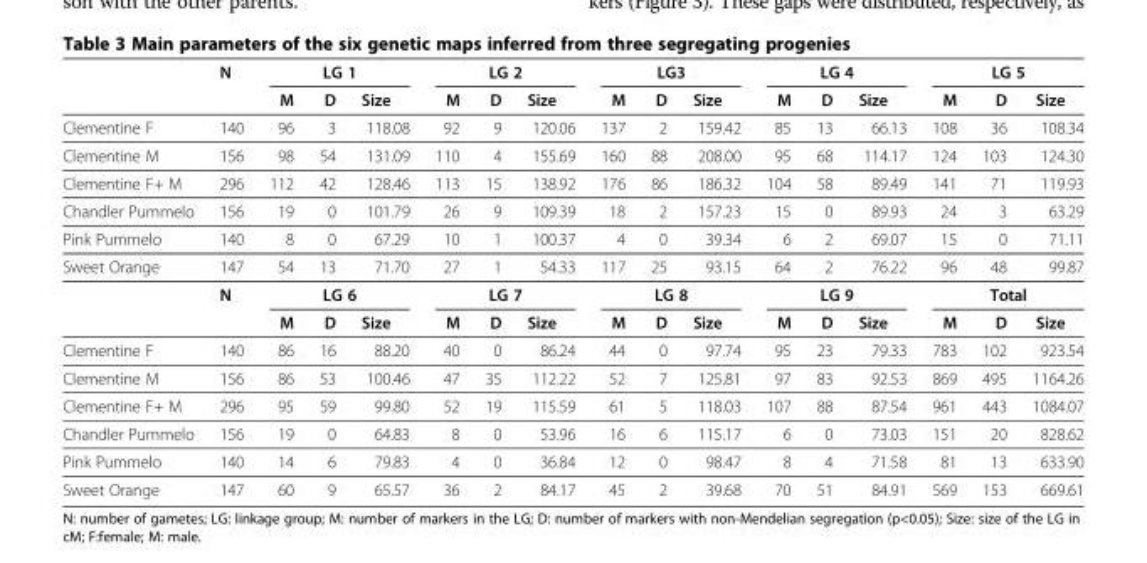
<table><thead><tr><td rowspan="2"></td><td rowspan="2">N</td><td colspan="3">LG 1</td><td colspan="3">LG 2</td><td colspan="3">LG3</td><td colspan="3">LG 4</td><td colspan="3">LG 5</td></tr><tr><td>M</td><td>D</td><td>Size</td><td>M</td><td>D</td><td>Size</td><td>M</td><td>D</td><td>Size</td><td>M</td><td>D</td><td>Size</td><td>M</td><td>D</td><td>Size</td></tr></thead><tbody><tr><td>Clementine F</td><td>140</td><td>96</td><td>3</td><td>118.08</td><td>92</td><td>9</td><td>120.06</td><td>137</td><td>2</td><td>159.42</td><td>85</td><td>13</td><td>66.13</td><td>108</td><td>36</td><td>108.34</td></tr><tr><td>Clementine M</td><td>156</td><td>98</td><td>54</td><td>131.09</td><td>110</td><td>4</td><td>155.69</td><td>160</td><td>88</td><td>208.00</td><td>95</td><td>68</td><td>114.17</td><td>124</td><td>103</td><td>124.30</td></tr><tr><td>Clementine F+ M</td><td>296</td><td>112</td><td>42</td><td>128.46</td><td>113</td><td>15</td><td>138.92</td><td>176</td><td>86</td><td>186.32</td><td>104</td><td>58</td><td>89.49</td><td>141</td><td>71</td><td>119.93</td></tr><tr><td>Chandler Pummelo</td><td>156</td><td>19</td><td>0</td><td>101.79</td><td>26</td><td>9</td><td>109.39</td><td>18</td><td>2</td><td>157.23</td><td>15</td><td>0</td><td>89.93</td><td>24</td><td>3</td><td>63.29</td></tr><tr><td>Pink Pummelo</td><td>140</td><td>8</td><td>0</td><td>67.29</td><td>10</td><td>1</td><td>100.37</td><td>4</td><td>0</td><td>39.34</td><td>6</td><td>2</td><td>69.07</td><td>15</td><td>0</td><td>71.11</td></tr><tr><td rowspan="3">Sweet Orange</td><td>147</td><td>54</td><td>13</td><td>71.70</td><td>27</td><td>1</td><td>54.33</td><td>117</td><td>25</td><td>93.15</td><td>64</td><td>2</td><td>76.22</td><td>96</td><td>48</td><td>99.87</td></tr><tr><td>N</td><td colspan="3">LG 6</td><td colspan="3">LG 7</td><td colspan="3">LG 8</td><td colspan="3">LG 9</td><td colspan="3">Total</td></tr><tr><td></td><td>M</td><td>D</td><td>Size</td><td>M</td><td>D</td><td>Size</td><td>M</td><td>D</td><td>Size</td><td>M</td><td>D</td><td>Size</td><td>M</td><td>D</td><td>Size</td></tr><tr><td>Clementine F</td><td>140</td><td>86</td><td>16</td><td>88.20</td><td>40</td><td>0</td><td>86.24</td><td>44</td><td>0</td><td>97.74</td><td>95</td><td>23</td><td>79.33</td><td>783</td><td>102</td><td>923.54</td></tr><tr><td>Clementine M</td><td>156</td><td>86</td><td>53</td><td>100.46</td><td>47</td><td>35</td><td>112.22</td><td>52</td><td>7</td><td>125.81</td><td>97</td><td>83</td><td>92.53</td><td>869</td><td>495</td><td>1164.26</td></tr><tr><td>Clementine F+ M</td><td>296</td><td>95</td><td>59</td><td>99.80</td><td>52</td><td>19</td><td>115.59</td><td>61</td><td>5</td><td>118.03</td><td>107</td><td>88</td><td>87.54</td><td>961</td><td>443</td><td>1084.07</td></tr><tr><td>Chandler Pummelo</td><td>156</td><td>19</td><td>0</td><td>64.83</td><td>8</td><td>0</td><td>53.96</td><td>16</td><td>6</td><td>115.17</td><td>6</td><td>0</td><td>73.03</td><td>151</td><td>20</td><td>828.62</td></tr><tr><td>Pink Pummelo</td><td>140</td><td>14</td><td>6</td><td>79.83</td><td>4</td><td>0</td><td>36.84</td><td>12</td><td>0</td><td>98.47</td><td>8</td><td>4</td><td>71.58</td><td>81</td><td>13</td><td>633.90</td></tr><tr><td>Sweet Orange</td><td>147</td><td>60</td><td>9</td><td>65.57</td><td>36</td><td>2</td><td>84.17</td><td>45</td><td>2</td><td>39.68</td><td>70</td><td>51</td><td>84.91</td><td>569</td><td>153</td><td>669.61</td></tr></tbody></table>